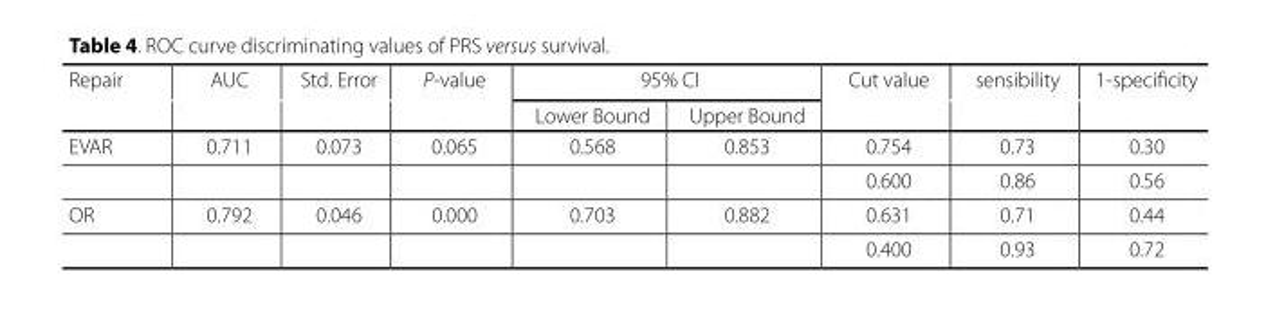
<table><thead><tr><td rowspan="2">Repair</td><td rowspan="2">AUC</td><td rowspan="2">Std. Error</td><td rowspan="2">P-value</td><td colspan="2">95% CI</td><td rowspan="2">Cut value</td><td rowspan="2">sensibility</td><td rowspan="2">1-specificity</td></tr><tr><td>Lower Bound</td><td>Upper Bound</td></tr></thead><tbody><tr><td rowspan="2">EVAR</td><td>0.711</td><td>0.073</td><td>0.065</td><td>0.568</td><td>0.853</td><td>0.754</td><td>0.73</td><td>0.30</td></tr><tr><td></td><td></td><td></td><td></td><td></td><td>0.600</td><td>0.86</td><td>0.56</td></tr><tr><td rowspan="2">OR</td><td>0.792</td><td>0.046</td><td>0.000</td><td>0.703</td><td>0.882</td><td>0.631</td><td>0.71</td><td>0.44</td></tr><tr><td></td><td></td><td></td><td></td><td></td><td>0.400</td><td>0.93</td><td>0.72</td></tr></tbody></table>